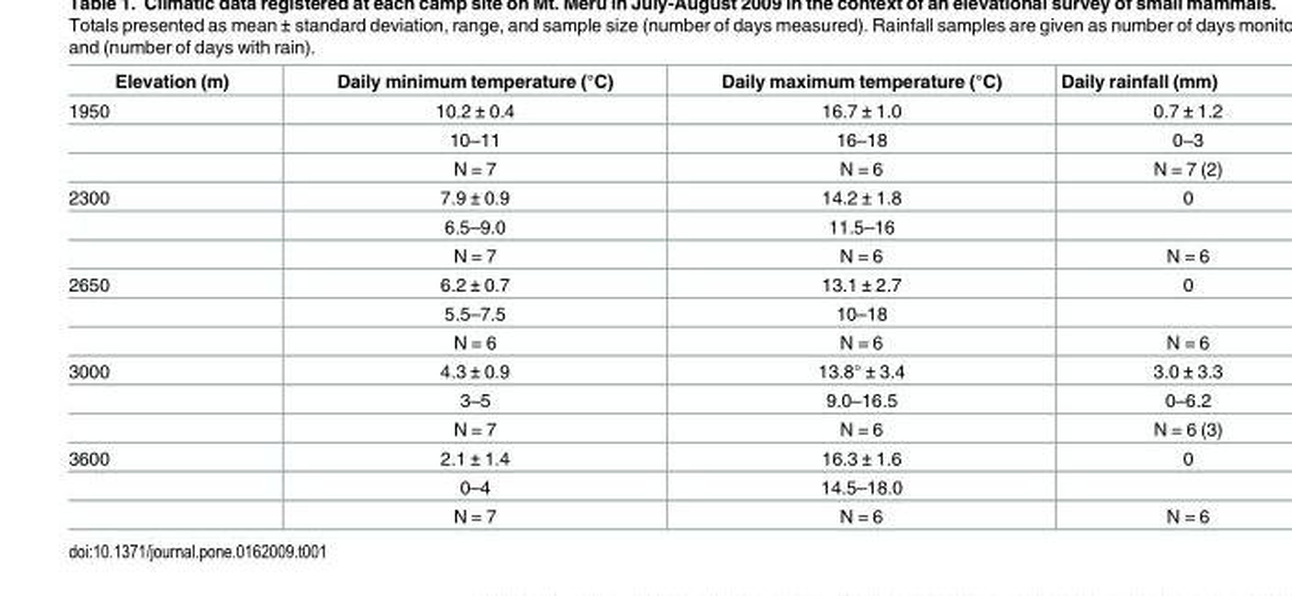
<table><thead><tr><td>Elevation (m)</td><td>Daily minimum temperature (°C)</td><td>Daily maximum temperature (°C)</td><td>Daily rainfall (mm)</td></tr></thead><tbody><tr><td rowspan="3">1950</td><td>10.2 ± 0.4</td><td>16.7 ± 1.0</td><td>0.7 ± 1.2</td></tr><tr><td>10–11</td><td>16–18</td><td>0–3</td></tr><tr><td>N = 7</td><td>N = 6</td><td>N = 7 (2)</td></tr><tr><td rowspan="3">2300</td><td>7.9 ± 0.9</td><td>14.2 ± 1.8</td><td>0</td></tr><tr><td>6.5–9.0</td><td>11.5–16</td><td></td></tr><tr><td>N = 7</td><td>N = 6</td><td>N = 6</td></tr><tr><td rowspan="3">2650</td><td>6.2 ± 0.7</td><td>13.1 ± 2.7</td><td>0</td></tr><tr><td>5.5–7.5</td><td>10–18</td><td></td></tr><tr><td>N = 6</td><td>N = 6</td><td>N = 6</td></tr><tr><td rowspan="3">3000</td><td>4.3 ± 0.9</td><td>13.8° ± 3.4</td><td>3.0 ± 3.3</td></tr><tr><td>3–5</td><td>9.0–16.5</td><td>0–6.2</td></tr><tr><td>N = 7</td><td>N = 6</td><td>N = 6 (3)</td></tr><tr><td rowspan="3">3600</td><td>2.1 ± 1.4</td><td>16.3 ± 1.6</td><td>0</td></tr><tr><td>0–4</td><td>14.5–18.0</td><td></td></tr><tr><td>N = 7</td><td>N = 6</td><td>N = 6</td></tr></tbody></table>